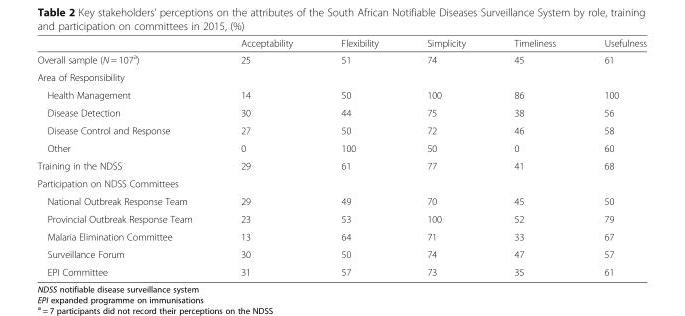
<table><thead><tr><td></td><td>Acceptability</td><td>Flexibility</td><td>Simplicity</td><td>Timeliness</td><td>Usefulness</td></tr></thead><tbody><tr><td>Overall sample (N = 107<sup>a</sup>)</td><td>25</td><td>51</td><td>74</td><td>45</td><td>61</td></tr><tr><td colspan="6">Area of Responsibility</td></tr><tr><td>Health Management</td><td>14</td><td>50</td><td>100</td><td>86</td><td>100</td></tr><tr><td>Disease Detection</td><td>30</td><td>44</td><td>75</td><td>38</td><td>56</td></tr><tr><td>Disease Control and Response</td><td>27</td><td>50</td><td>72</td><td>46</td><td>58</td></tr><tr><td>Other</td><td>0</td><td>100</td><td>50</td><td>0</td><td>60</td></tr><tr><td>Training in the NDSS</td><td>29</td><td>61</td><td>77</td><td>41</td><td>68</td></tr><tr><td colspan="6">Participation on NDSS Committees</td></tr><tr><td>National Outbreak Response Team</td><td>29</td><td>49</td><td>70</td><td>45</td><td>50</td></tr><tr><td>Provincial Outbreak Response Team</td><td>23</td><td>53</td><td>100</td><td>52</td><td>79</td></tr><tr><td>Malaria Elimination Committee</td><td>13</td><td>64</td><td>71</td><td>33</td><td>67</td></tr><tr><td>Surveillance Forum</td><td>30</td><td>50</td><td>74</td><td>47</td><td>57</td></tr><tr><td>EPI Committee</td><td>31</td><td>57</td><td>73</td><td>35</td><td>61</td></tr></tbody></table>